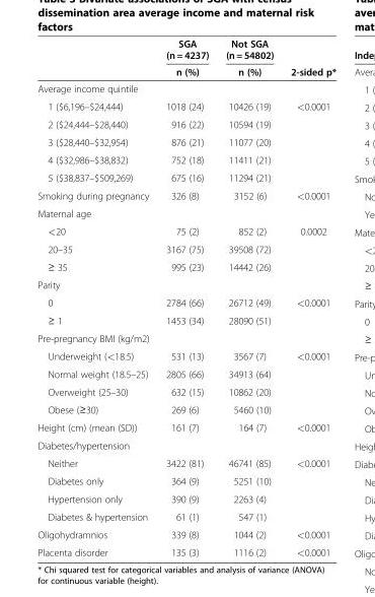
<table><thead><tr><td rowspan="2"></td><td rowspan="2">SGA (n = 4237) n (%)</td><td rowspan="2">Not SGA (n = 54802) n (%)</td><td rowspan="2">2-sided p*</td></tr><tr></tr></thead><tbody><tr><td colspan="4">Average income quintile</td></tr><tr><td>1 ($6,196–$24,444)</td><td>1018 (24)</td><td>10426 (19)</td><td>&lt;0.0001</td></tr><tr><td>2 ($24,444–$28,440)</td><td>916 (22)</td><td>10594 (19)</td><td></td></tr><tr><td>3 ($28,440–$32,954)</td><td>876 (21)</td><td>11077 (20)</td><td></td></tr><tr><td>4 ($32,986–$38,832)</td><td>752 (18)</td><td>11411 (21)</td><td></td></tr><tr><td>5 ($38,837–$509,269)</td><td>675 (16)</td><td>11294 (21)</td><td></td></tr><tr><td>Smoking during pregnancy</td><td>326 (8)</td><td>3152 (6)</td><td>&lt;0.0001</td></tr><tr><td colspan="4">Maternal age</td></tr><tr><td>&lt;20</td><td>75 (2)</td><td>852 (2)</td><td>0.0002</td></tr><tr><td>20–35</td><td>3167 (75)</td><td>39508 (72)</td><td></td></tr><tr><td>≥ 35</td><td>995 (23)</td><td>14442 (26)</td><td></td></tr><tr><td colspan="4">Parity</td></tr><tr><td>0</td><td>2784 (66)</td><td>26712 (49)</td><td>&lt;0.0001</td></tr><tr><td>≥ 1</td><td>1453 (34)</td><td>28090 (51)</td><td></td></tr><tr><td colspan="4">Pre-pregnancy BMI (kg/m2)</td></tr><tr><td>Underweight (&lt;18.5)</td><td>531 (13)</td><td>3567 (7)</td><td>&lt;0.0001</td></tr><tr><td>Normal weight (18.5–25)</td><td>2805 (66)</td><td>34913 (64)</td><td></td></tr><tr><td>Overweight (25–30)</td><td>632 (15)</td><td>10862 (20)</td><td></td></tr><tr><td>Obese (≥30)</td><td>269 (6)</td><td>5460 (10)</td><td></td></tr><tr><td>Height (cm) (mean (SD))</td><td>161 (7)</td><td>164 (7)</td><td>&lt;0.0001</td></tr><tr><td colspan="4">Diabetes/hypertension</td></tr><tr><td>Neither</td><td>3422 (81)</td><td>46741 (85)</td><td>&lt;0.0001</td></tr><tr><td>Diabetes only</td><td>364 (9)</td><td>5251 (10)</td><td></td></tr><tr><td>Hypertension only</td><td>390 (9)</td><td>2263 (4)</td><td></td></tr><tr><td>Diabetes &amp; hypertension</td><td>61 (1)</td><td>547 (1)</td><td></td></tr><tr><td>Oligohydramnios</td><td>339 (8)</td><td>1044 (2)</td><td>&lt;0.0001</td></tr><tr><td>Placenta disorder</td><td>135 (3)</td><td>1116 (2)</td><td>&lt;0.0001</td></tr></tbody></table>